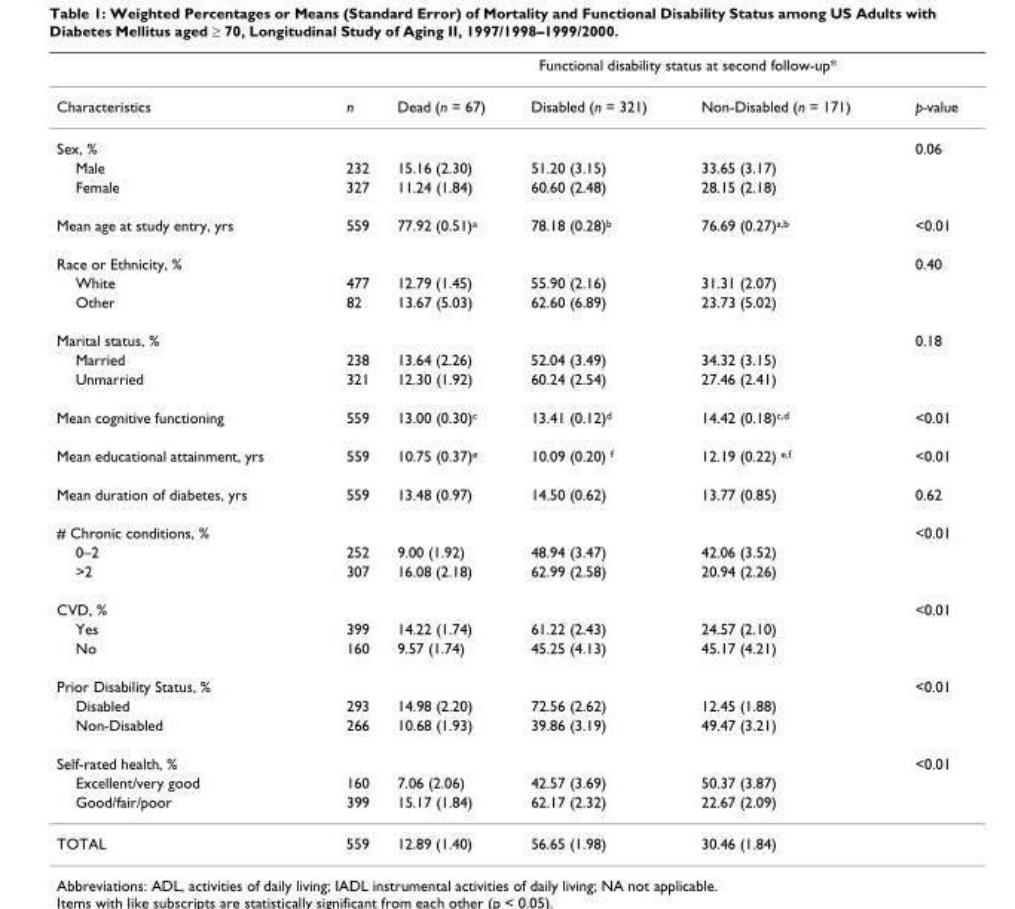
<table><thead><tr><td rowspan="2">Characteristics</td><td rowspan="2">n</td><td colspan="4">Functional disability status at second follow-up*</td></tr><tr><td>Dead (n = 67)</td><td>Disabled (n = 321)</td><td>Non-Disabled (n = 171)</td><td>p-value</td></tr></thead><tbody><tr><td>Sex, %</td><td></td><td></td><td></td><td></td><td>0.06</td></tr><tr><td>Male</td><td>232</td><td>15.16 (2.30)</td><td>51.20 (3.15)</td><td>33.65 (3.17)</td><td></td></tr><tr><td>Female</td><td>327</td><td>11.24 (1.84)</td><td>60.60 (2.48)</td><td>28.15 (2.18)</td><td></td></tr><tr><td>Mean age at study entry, yrs</td><td>559</td><td>77.92 (0.51)<sup>a</sup></td><td>78.18 (0.28)<sup>b</sup></td><td>76.69 (0.27)<sup>a,b</sup></td><td>&lt;0.01</td></tr><tr><td>Race or Ethnicity, %</td><td></td><td></td><td></td><td></td><td>0.40</td></tr><tr><td>White</td><td>477</td><td>12.79 (1.45)</td><td>55.90 (2.16)</td><td>31.31 (2.07)</td><td></td></tr><tr><td>Other</td><td>82</td><td>13.67 (5.03)</td><td>62.60 (6.89)</td><td>23.73 (5.02)</td><td></td></tr><tr><td>Marital status, %</td><td></td><td></td><td></td><td></td><td>0.18</td></tr><tr><td>Married</td><td>238</td><td>13.64 (2.26)</td><td>52.04 (3.49)</td><td>34.32 (3.15)</td><td></td></tr><tr><td>Unmarried</td><td>321</td><td>12.30 (1.92)</td><td>60.24 (2.54)</td><td>27.46 (2.41)</td><td></td></tr><tr><td>Mean cognitive functioning</td><td>559</td><td>13.00 (0.30)<sup>c</sup></td><td>13.41 (0.12)<sup>d</sup></td><td>14.42 (0.18)<sup>c,d</sup></td><td>&lt;0.01</td></tr><tr><td>Mean educational attainment, yrs</td><td>559</td><td>10.75 (0.37)<sup>e</sup></td><td>10.09 (0.20) <sup>f</sup></td><td>12.19 (0.22) <sup>e,f</sup></td><td>&lt;0.01</td></tr><tr><td>Mean duration of diabetes, yrs</td><td>559</td><td>13.48 (0.97)</td><td>14.50 (0.62)</td><td>13.77 (0.85)</td><td>0.62</td></tr><tr><td># Chronic conditions, %</td><td></td><td></td><td></td><td></td><td>&lt;0.01</td></tr><tr><td>0–2</td><td>252</td><td>9.00 (1.92)</td><td>48.94 (3.47)</td><td>42.06 (3.52)</td><td></td></tr><tr><td>&gt;2</td><td>307</td><td>16.08 (2.18)</td><td>62.99 (2.58)</td><td>20.94 (2.26)</td><td></td></tr><tr><td>CVD, %</td><td></td><td></td><td></td><td></td><td>&lt;0.01</td></tr><tr><td>Yes</td><td>399</td><td>14.22 (1.74)</td><td>61.22 (2.43)</td><td>24.57 (2.10)</td><td></td></tr><tr><td>No</td><td>160</td><td>9.57 (1.74)</td><td>45.25 (4.13)</td><td>45.17 (4.21)</td><td></td></tr><tr><td>Prior Disability Status, %</td><td></td><td></td><td></td><td></td><td>&lt;0.01</td></tr><tr><td>Disabled</td><td>293</td><td>14.98 (2.20)</td><td>72.56 (2.62)</td><td>12.45 (1.88)</td><td></td></tr><tr><td>Non-Disabled</td><td>266</td><td>10.68 (1.93)</td><td>39.86 (3.19)</td><td>49.47 (3.21)</td><td></td></tr><tr><td>Self-rated health, %</td><td></td><td></td><td></td><td></td><td>&lt;0.01</td></tr><tr><td>Excellent/very good</td><td>160</td><td>7.06 (2.06)</td><td>42.57 (3.69)</td><td>50.37 (3.87)</td><td></td></tr><tr><td>Good/fair/poor</td><td>399</td><td>15.17 (1.84)</td><td>62.17 (2.32)</td><td>22.67 (2.09)</td><td></td></tr><tr><td>TOTAL</td><td>559</td><td>12.89 (1.40)</td><td>56.65 (1.98)</td><td>30.46 (1.84)</td><td></td></tr></tbody></table>